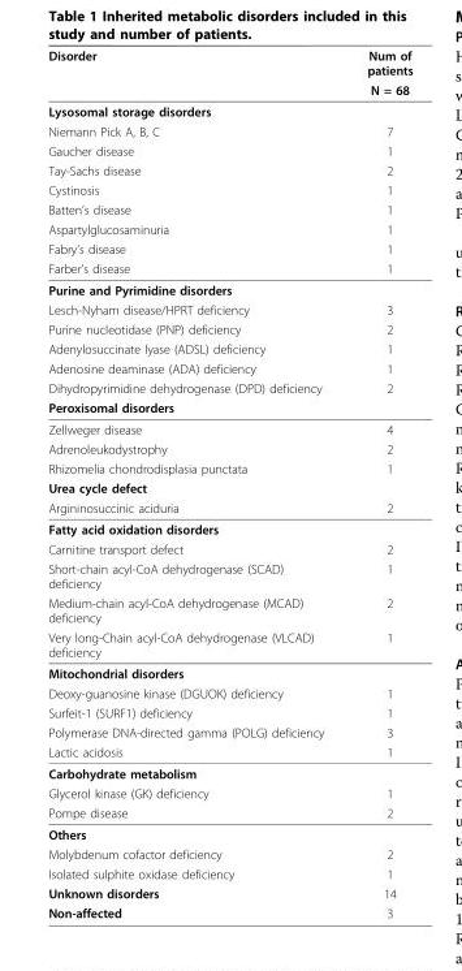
<table><thead><tr><td rowspan="2">Disorder</td><td rowspan="2">Num of patients N = 68</td></tr><tr></tr></thead><tbody><tr><td colspan="2">Lysosomal storage disorders</td></tr><tr><td>Niemann Pick A, B, C</td><td>7</td></tr><tr><td>Gaucher disease</td><td>1</td></tr><tr><td>Tay-Sachs disease</td><td>2</td></tr><tr><td>Cystinosis</td><td>1</td></tr><tr><td>Batten’s disease</td><td>1</td></tr><tr><td>Aspartylglucosaminuria</td><td>1</td></tr><tr><td>Fabry’s disease</td><td>1</td></tr><tr><td>Farber’s disease</td><td>1</td></tr><tr><td colspan="2">Purine and Pyrimidine disorders</td></tr><tr><td>Lesch-Nyham disease/HPRT deficiency</td><td>3</td></tr><tr><td>Purine nucleotidase (PNP) deficiency</td><td>2</td></tr><tr><td>Adenylosuccinate lyase (ADSL) deficiency</td><td>1</td></tr><tr><td>Adenosine deaminase (ADA) deficiency</td><td>1</td></tr><tr><td>Dihydropyrimidine dehydrogenase (DPD) deficiency</td><td>2</td></tr><tr><td colspan="2">Peroxisomal disorders</td></tr><tr><td>Zellweger disease</td><td>4</td></tr><tr><td>Adrenoleukodystrophy</td><td>2</td></tr><tr><td>Rhizomelia chondrodisplasia punctata</td><td>1</td></tr><tr><td colspan="2">Urea cycle defect</td></tr><tr><td>Argininosuccinic aciduria</td><td>2</td></tr><tr><td colspan="2">Fatty acid oxidation disorders</td></tr><tr><td>Carnitine transport defect</td><td>2</td></tr><tr><td>Short-chain acyl-CoA dehydrogenase (SCAD) deficiency</td><td>1</td></tr><tr><td>Medium-chain acyl-CoA dehydrogenase (MCAD) deficiency</td><td>2</td></tr><tr><td>Very long-Chain acyl-CoA dehydrogenase (VLCAD) deficiency</td><td>1</td></tr><tr><td colspan="2">Mitochondrial disorders</td></tr><tr><td>Deoxy-guanosine kinase (DGUOK) deficiency</td><td>1</td></tr><tr><td>Surfeit-1 (SURF1) deficiency</td><td>1</td></tr><tr><td>Polymerase DNA-directed gamma (POLG) deficiency</td><td>3</td></tr><tr><td>Lactic acidosis</td><td>1</td></tr><tr><td colspan="2">Carbohydrate metabolism</td></tr><tr><td>Glycerol kinase (GK) deficiency</td><td>1</td></tr><tr><td>Pompe disease</td><td>2</td></tr><tr><td colspan="2">Others</td></tr><tr><td>Molybdenum cofactor deficiency</td><td>2</td></tr><tr><td>Isolated sulphite oxidase deficiency</td><td>1</td></tr><tr><td>Unknown disorders</td><td>14</td></tr><tr><td>Non-affected</td><td>3</td></tr></tbody></table>